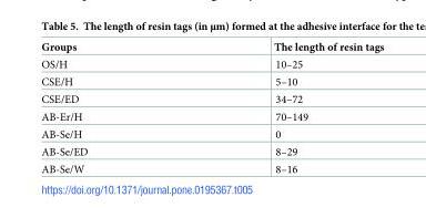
<table><thead><tr><td>Groups</td><td>The length of resin tags</td></tr></thead><tbody><tr><td>OS/H</td><td>10–25</td></tr><tr><td>CSE/H</td><td>5–10</td></tr><tr><td>CSE/ED</td><td>34–72</td></tr><tr><td>AB-Er/H</td><td>70–149</td></tr><tr><td>AB-Se/H</td><td>0</td></tr><tr><td>AB-Se/ED</td><td>8–29</td></tr><tr><td>AB-Se/W</td><td>8–16</td></tr></tbody></table>